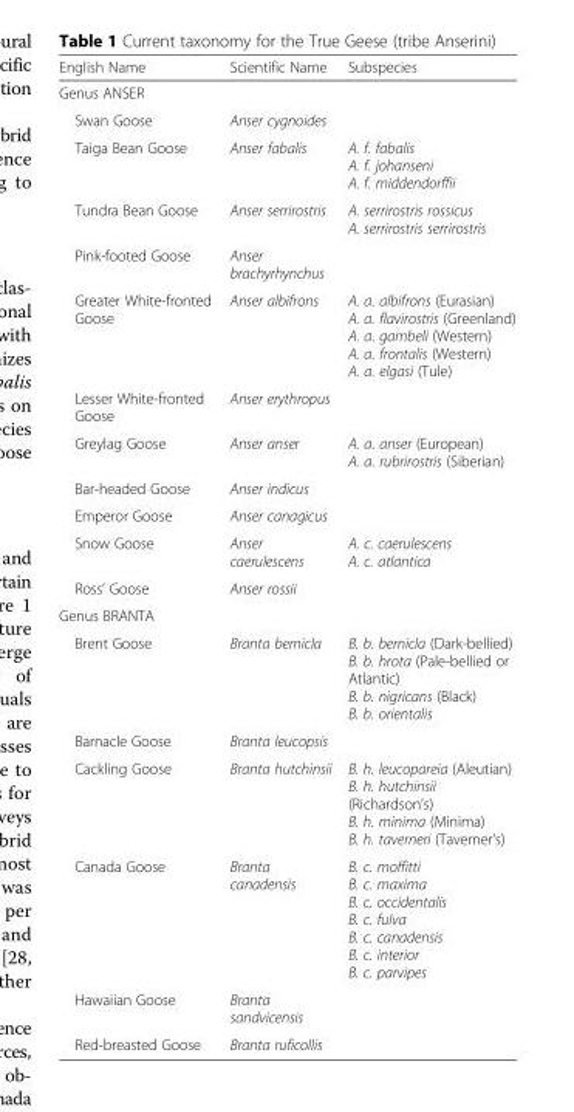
<table><thead><tr><td>English Name</td><td>Scientific Name</td><td>Subspecies</td></tr></thead><tbody><tr><td colspan="3">Genus ANSER</td></tr><tr><td>Swan Goose</td><td>Anser cygnoides</td><td></td></tr><tr><td>Taiga Bean Goose</td><td>Anser fabalis</td><td>A. f. fabalis A. f. johanseni A. f. middendorffii</td></tr><tr><td>Tundra Bean Goose</td><td>Anser serrirostris</td><td>A. serrirostris rossicus A. serrirostris serrirostris</td></tr><tr><td>Pink-footed Goose</td><td>Anser brachyrhynchus</td><td></td></tr><tr><td>Greater White-fronted Goose</td><td>Anser albifrons</td><td>A. a. albifrons (Eurasian) A. a. flavirostris (Greenland) A. a. gambeli (Western) A. a. frontalis (Western) A. a. elgasi (Tule)</td></tr><tr><td>Lesser White-fronted Goose</td><td>Anser erythropus</td><td></td></tr><tr><td>Greylag Goose</td><td>Anser anser</td><td>A. a. anser (European) A. a. rubrirostris (Siberian)</td></tr><tr><td>Bar-headed Goose</td><td>Anser indicus</td><td rowspan="2"></td></tr><tr><td>Emperor Goose</td><td>Anser canagicus</td></tr><tr><td>Snow Goose</td><td>Anser caerulescens</td><td>A. c. caerulescens A. c. atlantica</td></tr><tr><td>Ross’ Goose</td><td>Anser rossii</td><td></td></tr><tr><td colspan="3">Genus BRANTA</td></tr><tr><td>Brent Goose</td><td>Branta bernicla</td><td>B. b. bernicla (Dark-bellied) B. b. hrota (Pale-bellied or Atlantic) B. b. nigricans (Black) B. b. orientalis</td></tr><tr><td>Barnacle Goose</td><td>Branta leucopsis</td><td></td></tr><tr><td>Cackling Goose</td><td>Branta hutchinsii</td><td>B. h. leucopareia (Aleutian) B. h. hutchinsii (Richardson’s) B. h. minima (Minima) B. h. taverneri (Taverner’s)</td></tr><tr><td>Canada Goose</td><td>Branta canadensis</td><td>B. c. moffitti B. c. maxima B. c. occidentalis B. c. fulva B. c. canadensis B. c. interior B. c. parvipes</td></tr><tr><td>Hawaiian Goose</td><td>Branta sandvicensis</td><td rowspan="2"></td></tr><tr><td>Red-breasted Goose</td><td>Branta ruficollis</td></tr></tbody></table>